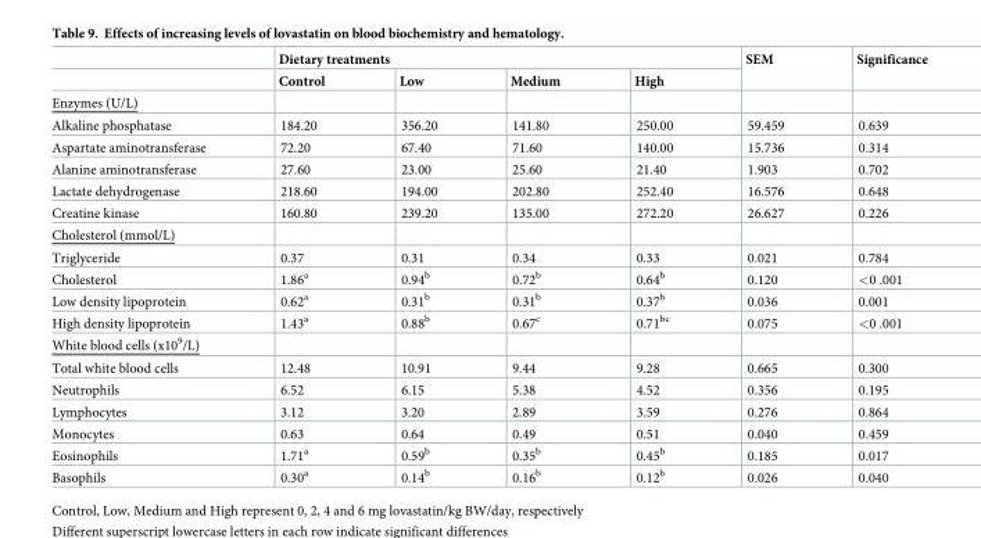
<table><thead><tr><td rowspan="2"></td><td colspan="4">Dietary treatments</td><td rowspan="2">SEM</td><td rowspan="2">Significance</td></tr><tr><td>Control</td><td>Low</td><td>Medium</td><td>High</td></tr></thead><tbody><tr><td colspan="7">Enzymes (U/L)</td></tr><tr><td>Alkaline phosphatase</td><td>184.20</td><td>356.20</td><td>141.80</td><td>250.00</td><td>59.459</td><td>0.639</td></tr><tr><td>Aspartate aminotransferase</td><td>72.20</td><td>67.40</td><td>71.60</td><td>140.00</td><td>15.736</td><td>0.314</td></tr><tr><td>Alanine aminotransferase</td><td>27.60</td><td>23.00</td><td>25.60</td><td>21.40</td><td>1.903</td><td>0.702</td></tr><tr><td>Lactate dehydrogenase</td><td>218.60</td><td>194.00</td><td>202.80</td><td>252.40</td><td>16.576</td><td>0.648</td></tr><tr><td>Creatine kinase</td><td>160.80</td><td>239.20</td><td>135.00</td><td>272.20</td><td>26.627</td><td>0.226</td></tr><tr><td colspan="7">Cholesterol (mmol/L)</td></tr><tr><td>Triglyceride</td><td>0.37</td><td>0.31</td><td>0.34</td><td>0.33</td><td>0.021</td><td>0.784</td></tr><tr><td>Cholesterol</td><td>1.86<sup>a</sup></td><td>0.94<sup>b</sup></td><td>0.72<sup>b</sup></td><td>0.64<sup>b</sup></td><td>0.120</td><td>&lt;0 .001</td></tr><tr><td>Low density lipoprotein</td><td>0.62<sup>a</sup></td><td>0.31<sup>b</sup></td><td>0.31<sup>b</sup></td><td>0.37<sup>b</sup></td><td>0.036</td><td>0.001</td></tr><tr><td>High density lipoprotein</td><td>1.43<sup>a</sup></td><td>0.88<sup>b</sup></td><td>0.67<sup>c</sup></td><td>0.71<sup>bc</sup></td><td>0.075</td><td>&lt;0 .001</td></tr><tr><td colspan="7">White blood cells (x10<sup>9</sup>/L)</td></tr><tr><td>Total white blood cells</td><td>12.48</td><td>10.91</td><td>9.44</td><td>9.28</td><td>0.665</td><td>0.300</td></tr><tr><td>Neutrophils</td><td>6.52</td><td>6.15</td><td>5.38</td><td>4.52</td><td>0.356</td><td>0.195</td></tr><tr><td>Lymphocytes</td><td>3.12</td><td>3.20</td><td>2.89</td><td>3.59</td><td>0.276</td><td>0.864</td></tr><tr><td>Monocytes</td><td>0.63</td><td>0.64</td><td>0.49</td><td>0.51</td><td>0.040</td><td>0.459</td></tr><tr><td>Eosinophils</td><td>1.71<sup>a</sup></td><td>0.59<sup>b</sup></td><td>0.35<sup>b</sup></td><td>0.45<sup>b</sup></td><td>0.185</td><td>0.017</td></tr><tr><td>Basophils</td><td>0.30<sup>a</sup></td><td>0.14<sup>b</sup></td><td>0.16<sup>b</sup></td><td>0.12<sup>b</sup></td><td>0.026</td><td>0.040</td></tr></tbody></table>